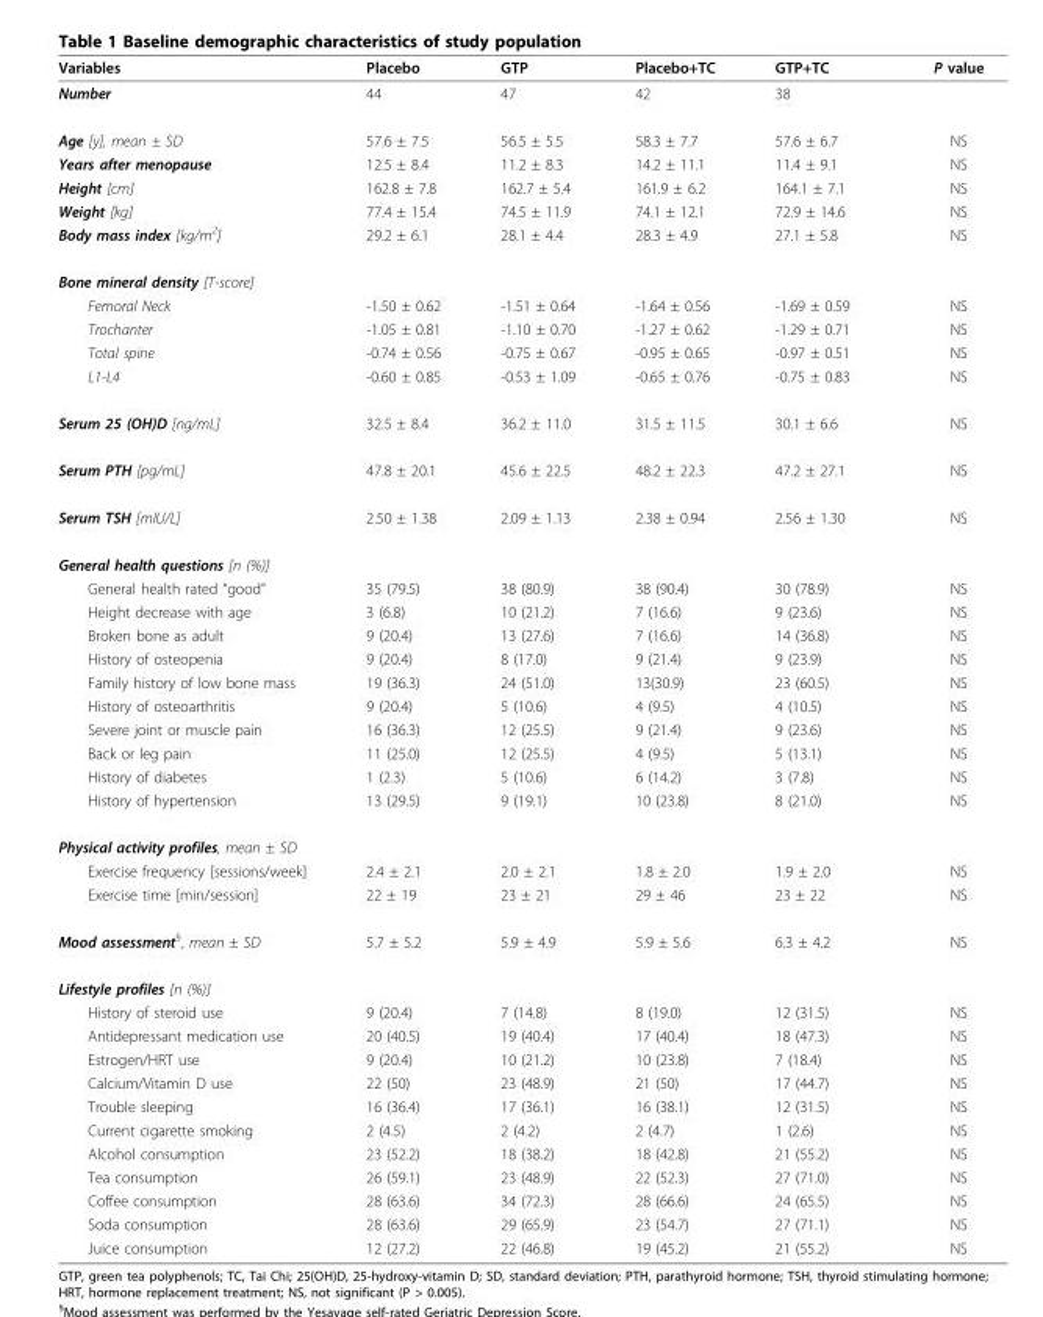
<table><thead><tr><td>Variables</td><td>Placebo</td><td>GTP</td><td>Placebo+TC</td><td>GTP+TC</td><td>P value</td></tr></thead><tbody><tr><td>Number</td><td>44</td><td>47</td><td>42</td><td>38</td><td></td></tr><tr><td>Age [y], mean ± SD</td><td>57.6 ± 7.5</td><td>56.5 ± 5.5</td><td>58.3 ± 7.7</td><td>57.6 ± 6.7</td><td>NS</td></tr><tr><td>Years after menopause</td><td>12.5 ± 8.4</td><td>11.2 ± 8.3</td><td>14.2 ± 11.1</td><td>11.4 ± 9.1</td><td>NS</td></tr><tr><td>Height [cm]</td><td>162.8 ± 7.8</td><td>162.7 ± 5.4</td><td>161.9 ± 6.2</td><td>164.1 ± 7.1</td><td>NS</td></tr><tr><td>Weight [kg]</td><td>77.4 ± 15.4</td><td>74.5 ± 11.9</td><td>74.1 ± 12.1</td><td>72.9 ± 14.6</td><td>NS</td></tr><tr><td>Body mass index [kg/m<sup>2</sup>]</td><td>29.2 ± 6.1</td><td>28.1 ± 4.4</td><td>28.3 ± 4.9</td><td>27.1 ± 5.8</td><td>NS</td></tr><tr><td colspan="6">Bone mineral density [T-score]</td></tr><tr><td>Femoral Neck</td><td>-1.50 ± 0.62</td><td>-1.51 ± 0.64</td><td>-1.64 ± 0.56</td><td>-1.69 ± 0.59</td><td>NS</td></tr><tr><td>Trochanter</td><td>-1.05 ± 0.81</td><td>-1.10 ± 0.70</td><td>-1.27 ± 0.62</td><td>-1.29 ± 0.71</td><td>NS</td></tr><tr><td>Total spine</td><td>-0.74 ± 0.56</td><td>-0.75 ± 0.67</td><td>-0.95 ± 0.65</td><td>-0.97 ± 0.51</td><td>NS</td></tr><tr><td>L1-L4</td><td>-0.60 ± 0.85</td><td>-0.53 ± 1.09</td><td>-0.65 ± 0.76</td><td>-0.75 ± 0.83</td><td>NS</td></tr><tr><td>Serum 25 (OH)D [ng/mL]</td><td>32.5 ± 8.4</td><td>36.2 ± 11.0</td><td>31.5 ± 11.5</td><td>30.1 ± 6.6</td><td>NS</td></tr><tr><td>Serum PTH [pg/mL]</td><td>47.8 ± 20.1</td><td>45.6 ± 22.5</td><td>48.2 ± 22.3</td><td>47.2 ± 27.1</td><td>NS</td></tr><tr><td>Serum TSH [mIU/L]</td><td>2.50 ± 1.38</td><td>2.09 ± 1.13</td><td>2.38 ± 0.94</td><td>2.56 ± 1.30</td><td>NS</td></tr><tr><td colspan="6">General health questions [n (%)]</td></tr><tr><td>General health rated “good”</td><td>35 (79.5)</td><td>38 (80.9)</td><td>38 (90.4)</td><td>30 (78.9)</td><td>NS</td></tr><tr><td>Height decrease with age</td><td>3 (6.8)</td><td>10 (21.2)</td><td>7 (16.6)</td><td>9 (23.6)</td><td>NS</td></tr><tr><td>Broken bone as adult</td><td>9 (20.4)</td><td>13 (27.6)</td><td>7 (16.6)</td><td>14 (36.8)</td><td>NS</td></tr><tr><td>History of osteopenia</td><td>9 (20.4)</td><td>8 (17.0)</td><td>9 (21.4)</td><td>9 (23.9)</td><td>NS</td></tr><tr><td>Family history of low bone mass</td><td>19 (36.3)</td><td>24 (51.0)</td><td>13(30.9)</td><td>23 (60.5)</td><td>NS</td></tr><tr><td>History of osteoarthritis</td><td>9 (20.4)</td><td>5 (10.6)</td><td>4 (9.5)</td><td>4 (10.5)</td><td>NS</td></tr><tr><td>Severe joint or muscle pain</td><td>16 (36.3)</td><td>12 (25.5)</td><td>9 (21.4)</td><td>9 (23.6)</td><td>NS</td></tr><tr><td>Back or leg pain</td><td>11 (25.0)</td><td>12 (25.5)</td><td>4 (9.5)</td><td>5 (13.1)</td><td>NS</td></tr><tr><td>History of diabetes</td><td>1 (2.3)</td><td>5 (10.6)</td><td>6 (14.2)</td><td>3 (7.8)</td><td>NS</td></tr><tr><td>History of hypertension</td><td>13 (29.5)</td><td>9 (19.1)</td><td>10 (23.8)</td><td>8 (21.0)</td><td>NS</td></tr><tr><td colspan="6">Physical activity profiles, mean ± SD</td></tr><tr><td>Exercise frequency [sessions/week]</td><td>2.4 ± 2.1</td><td>2.0 ± 2.1</td><td>1.8 ± 2.0</td><td>1.9 ± 2.0</td><td>NS</td></tr><tr><td>Exercise time [min/session]</td><td>22 ± 19</td><td>23 ± 21</td><td>29 ± 46</td><td>23 ± 22</td><td>NS</td></tr><tr><td>Mood assessment<sup>§</sup>, mean ± SD</td><td>5.7 ± 5.2</td><td>5.9 ± 4.9</td><td>5.9 ± 5.6</td><td>6.3 ± 4.2</td><td>NS</td></tr><tr><td colspan="6">Lifestyle profiles [n (%)]</td></tr><tr><td>History of steroid use</td><td>9 (20.4)</td><td>7 (14.8)</td><td>8 (19.0)</td><td>12 (31.5)</td><td>NS</td></tr><tr><td>Antidepressant medication use</td><td>20 (40.5)</td><td>19 (40.4)</td><td>17 (40.4)</td><td>18 (47.3)</td><td>NS</td></tr><tr><td>Estrogen/HRT use</td><td>9 (20.4)</td><td>10 (21.2)</td><td>10 (23.8)</td><td>7 (18.4)</td><td>NS</td></tr><tr><td>Calcium/Vitamin D use</td><td>22 (50)</td><td>23 (48.9)</td><td>21 (50)</td><td>17 (44.7)</td><td>NS</td></tr><tr><td>Trouble sleeping</td><td>16 (36.4)</td><td>17 (36.1)</td><td>16 (38.1)</td><td>12 (31.5)</td><td>NS</td></tr><tr><td>Current cigarette smoking</td><td>2 (4.5)</td><td>2 (4.2)</td><td>2 (4.7)</td><td>1 (2.6)</td><td>NS</td></tr><tr><td>Alcohol consumption</td><td>23 (52.2)</td><td>18 (38.2)</td><td>18 (42.8)</td><td>21 (55.2)</td><td>NS</td></tr><tr><td>Tea consumption</td><td>26 (59.1)</td><td>23 (48.9)</td><td>22 (52.3)</td><td>27 (71.0)</td><td>NS</td></tr><tr><td>Coffee consumption</td><td>28 (63.6)</td><td>34 (72.3)</td><td>28 (66.6)</td><td>24 (65.5)</td><td>NS</td></tr><tr><td>Soda consumption</td><td>28 (63.6)</td><td>29 (65.9)</td><td>23 (54.7)</td><td>27 (71.1)</td><td>NS</td></tr><tr><td>Juice consumption</td><td>12 (27.2)</td><td>22 (46.8)</td><td>19 (45.2)</td><td>21 (55.2)</td><td>NS</td></tr></tbody></table>